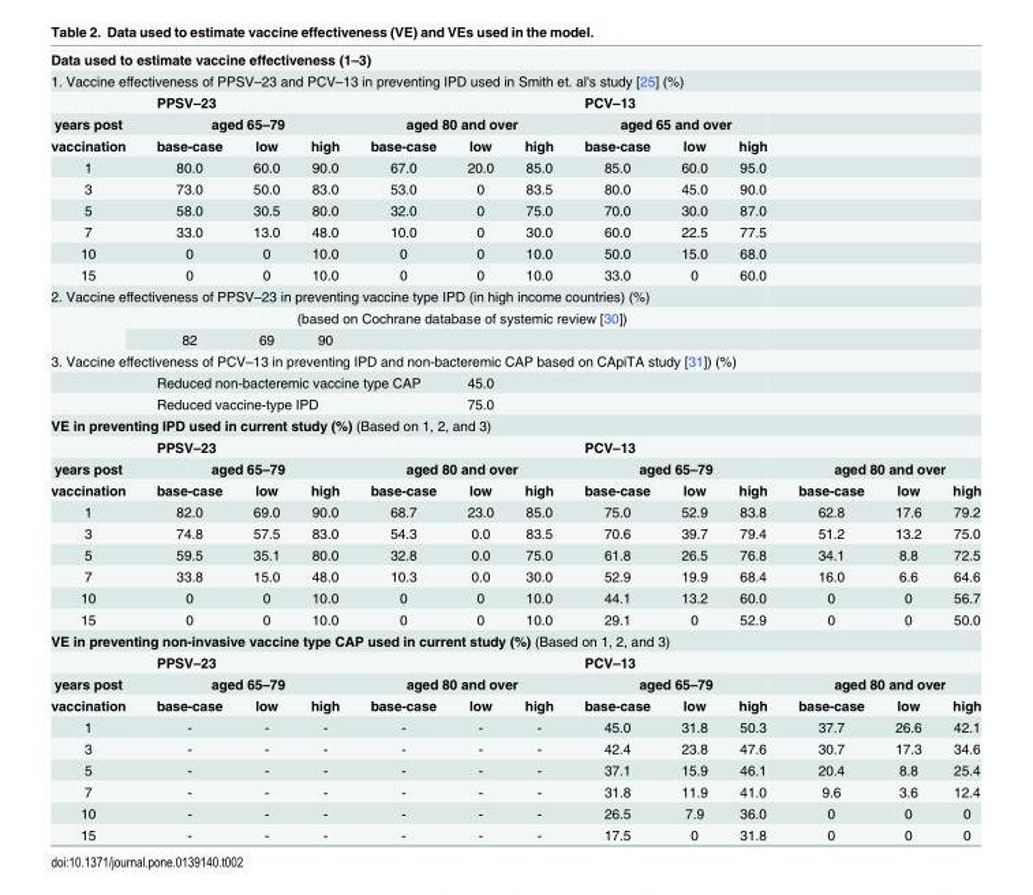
<table><tbody><tr><td colspan="13">Data used to estimate vaccine effectiveness (1–3)</td></tr><tr><td colspan="13">1. Vaccine effectiveness of PPSV–23 and PCV–13 in preventing IPD used in Smith et. al&#x27;s study [25] (%)</td></tr><tr><td></td><td colspan="6">PPSV–23</td><td colspan="3">PCV–13</td><td colspan="3"></td></tr><tr><td>years post</td><td colspan="3">aged 65–79</td><td colspan="3">aged 80 and over</td><td colspan="3">aged 65 and over</td><td colspan="3"></td></tr><tr><td>vaccination</td><td>base-case</td><td>low</td><td>high</td><td>base-case</td><td>low</td><td>high</td><td>base-case</td><td>low</td><td>high</td><td colspan="3"></td></tr><tr><td>1</td><td>80.0</td><td>60.0</td><td>90.0</td><td>67.0</td><td>20.0</td><td>85.0</td><td>85.0</td><td>60.0</td><td>95.0</td><td colspan="3"></td></tr><tr><td>3</td><td>73.0</td><td>50.0</td><td>83.0</td><td>53.0</td><td>0</td><td>83.5</td><td>80.0</td><td>45.0</td><td>90.0</td><td colspan="3"></td></tr><tr><td>5</td><td>58.0</td><td>30.5</td><td>80.0</td><td>32.0</td><td>0</td><td>75.0</td><td>70.0</td><td>30.0</td><td>87.0</td><td colspan="3"></td></tr><tr><td>7</td><td>33.0</td><td>13.0</td><td>48.0</td><td>10.0</td><td>0</td><td>30.0</td><td>60.0</td><td>22.5</td><td>77.5</td><td colspan="3"></td></tr><tr><td>10</td><td>0</td><td>0</td><td>10.0</td><td>0</td><td>0</td><td>10.0</td><td>50.0</td><td>15.0</td><td>68.0</td><td colspan="3"></td></tr><tr><td>15</td><td>0</td><td>0</td><td>10.0</td><td>0</td><td>0</td><td>10.0</td><td>33.0</td><td>0</td><td>60.0</td><td colspan="3"></td></tr><tr><td colspan="13">2. Vaccine effectiveness of PPSV–23 in preventing vaccine type IPD (in high income countries) (%)</td></tr><tr><td rowspan="2"></td><td colspan="9">(based on Cochrane database of systemic review [30])</td><td colspan="3"></td></tr><tr><td>82</td><td>69</td><td>90</td><td colspan="6"></td><td colspan="3"></td></tr><tr><td colspan="13">3. Vaccine effectiveness of PCV–13 in preventing IPD and non-bacteremic CAP based on CApiTA study [31]) (%)</td></tr><tr><td></td><td colspan="4">Reduced non-bacteremic vaccine type CAP</td><td colspan="5">45.0</td><td colspan="3"></td></tr><tr><td></td><td colspan="3">Reduced vaccine-type IPD</td><td></td><td colspan="5">75.0</td><td colspan="3"></td></tr><tr><td colspan="13">VE in preventing IPD used in current study (%) (Based on 1, 2, and 3)</td></tr><tr><td></td><td colspan="6">PPSV–23</td><td colspan="6">PCV–13</td></tr><tr><td>years post</td><td colspan="3">aged 65–79</td><td colspan="3">aged 80 and over</td><td colspan="3">aged 65–79</td><td colspan="3">aged 80 and over</td></tr><tr><td>vaccination</td><td>base-case</td><td>low</td><td>high</td><td>base-case</td><td>low</td><td>high</td><td>base-case</td><td>low</td><td>high</td><td>base-case</td><td>low</td><td>high</td></tr><tr><td>1</td><td>82.0</td><td>69.0</td><td>90.0</td><td>68.7</td><td>23.0</td><td>85.0</td><td>75.0</td><td>52.9</td><td>83.8</td><td>62.8</td><td>17.6</td><td>79.2</td></tr><tr><td>3</td><td>74.8</td><td>57.5</td><td>83.0</td><td>54.3</td><td>0.0</td><td>83.5</td><td>70.6</td><td>39.7</td><td>79.4</td><td>51.2</td><td>13.2</td><td>75.0</td></tr><tr><td>5</td><td>59.5</td><td>35.1</td><td>80.0</td><td>32.8</td><td>0.0</td><td>75.0</td><td>61.8</td><td>26.5</td><td>76.8</td><td>34.1</td><td>8.8</td><td>72.5</td></tr><tr><td>7</td><td>33.8</td><td>15.0</td><td>48.0</td><td>10.3</td><td>0.0</td><td>30.0</td><td>52.9</td><td>19.9</td><td>68.4</td><td>16.0</td><td>6.6</td><td>64.6</td></tr><tr><td>10</td><td>0</td><td>0</td><td>10.0</td><td>0</td><td>0</td><td>10.0</td><td>44.1</td><td>13.2</td><td>60.0</td><td>0</td><td>0</td><td>56.7</td></tr><tr><td>15</td><td>0</td><td>0</td><td>10.0</td><td>0</td><td>0</td><td>10.0</td><td>29.1</td><td>0</td><td>52.9</td><td>0</td><td>0</td><td>50.0</td></tr><tr><td colspan="13">VE in preventing non-invasive vaccine type CAP used in current study (%) (Based on 1, 2, and 3)</td></tr><tr><td></td><td colspan="6">PPSV–23</td><td colspan="6">PCV–13</td></tr><tr><td>years post</td><td colspan="3">aged 65–79</td><td colspan="3">aged 80 and over</td><td colspan="3">aged 65–79</td><td colspan="3">aged 80 and over</td></tr><tr><td>vaccination</td><td>base-case</td><td>low</td><td>high</td><td>base-case</td><td>low</td><td>high</td><td>base-case</td><td>low</td><td>high</td><td>base-case</td><td>low</td><td>high</td></tr><tr><td>1</td><td>-</td><td>-</td><td>-</td><td>-</td><td>-</td><td>-</td><td>45.0</td><td>31.8</td><td>50.3</td><td>37.7</td><td>26.6</td><td>42.1</td></tr><tr><td>3</td><td>-</td><td>-</td><td>-</td><td>-</td><td>-</td><td>-</td><td>42.4</td><td>23.8</td><td>47.6</td><td>30.7</td><td>17.3</td><td>34.6</td></tr><tr><td>5</td><td>-</td><td>-</td><td>-</td><td>-</td><td>-</td><td>-</td><td>37.1</td><td>15.9</td><td>46.1</td><td>20.4</td><td>8.8</td><td>25.4</td></tr><tr><td>7</td><td>-</td><td>-</td><td>-</td><td>-</td><td>-</td><td>-</td><td>31.8</td><td>11.9</td><td>41.0</td><td>9.6</td><td>3.6</td><td>12.4</td></tr><tr><td>10</td><td>-</td><td>-</td><td>-</td><td>-</td><td>-</td><td>-</td><td>26.5</td><td>7.9</td><td>36.0</td><td>0</td><td>0</td><td>0</td></tr><tr><td>15</td><td>-</td><td>-</td><td>-</td><td>-</td><td>-</td><td>-</td><td>17.5</td><td>0</td><td>31.8</td><td>0</td><td>0</td><td>0</td></tr></tbody></table>